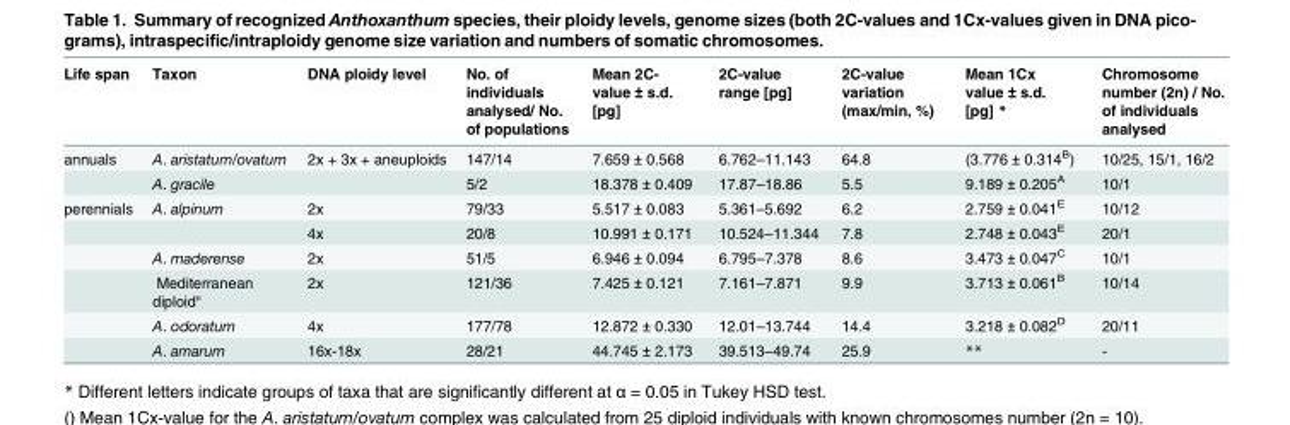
<table><thead><tr><td>Life span</td><td>Taxon</td><td>DNA ploidy level</td><td>No. of individuals analysed/ No. of populations</td><td>Mean 2C- value ± s.d. [pg]</td><td>2C-value range [pg]</td><td>2C-value variation (max/min, %)</td><td>Mean 1Cx value ± s.d. [pg] *</td><td>Chromosome number (2n) / No. of individuals analysed</td></tr></thead><tbody><tr><td rowspan="2">annuals</td><td>A. aristatum/ovatum</td><td>2x + 3x + aneuploids</td><td>147/14</td><td>7.659 ± 0.568</td><td>6.762–11.143</td><td>64.8</td><td>(3.776 ± 0.314<sup>B</sup>)</td><td>10/25, 15/1, 16/2</td></tr><tr><td>A. gracile</td><td></td><td>5/2</td><td>18.378 ± 0.409</td><td>17.87–18.86</td><td>5.5</td><td>9.189 ± 0.205<sup>A</sup></td><td>10/1</td></tr><tr><td rowspan="6">perennials</td><td>A. alpinum</td><td>2x</td><td>79/33</td><td>5.517 ± 0.083</td><td>5.361–5.692</td><td>6.2</td><td>2.759 ± 0.041<sup>E</sup></td><td>10/12</td></tr><tr><td></td><td>4x</td><td>20/8</td><td>10.991 ± 0.171</td><td>10.524–11.344</td><td>7.8</td><td>2.748 ± 0.043<sup>E</sup></td><td>20/1</td></tr><tr><td>A. maderense</td><td>2x</td><td>51/5</td><td>6.946 ± 0.094</td><td>6.795–7.378</td><td>8.6</td><td>3.473 ± 0.047<sup>C</sup></td><td>10/1</td></tr><tr><td>ˮMediterranean diploid“</td><td>2x</td><td>121/36</td><td>7.425 ± 0.121</td><td>7.161–7.871</td><td>9.9</td><td>3.713 ± 0.061<sup>B</sup></td><td>10/14</td></tr><tr><td>A. odoratum</td><td>4x</td><td>177/78</td><td>12.872 ± 0.330</td><td>12.01–13.744</td><td>14.4</td><td>3.218 ± 0.082<sup>D</sup></td><td>20/11</td></tr><tr><td>A. amarum</td><td>16x-18x</td><td>28/21</td><td>44.745 ± 2.173</td><td>39.513–49.74</td><td>25.9</td><td>**</td><td>-</td></tr></tbody></table>